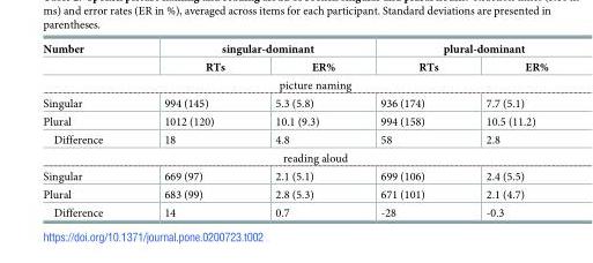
<table><thead><tr><td rowspan="2">Number</td><td colspan="2">singular-dominant</td><td colspan="2">plural-dominant</td></tr><tr><td>RTs</td><td>ER%</td><td>RTs</td><td>ER%</td></tr></thead><tbody><tr><td colspan="5">picture naming</td></tr><tr><td>Singular</td><td>994 (145)</td><td>5.3 (5.8)</td><td>936 (174)</td><td>7.7 (5.1)</td></tr><tr><td>Plural</td><td>1012 (120)</td><td>10.1 (9.3)</td><td>994 (158)</td><td>10.5 (11.2)</td></tr><tr><td>Difference</td><td>18</td><td>4.8</td><td>58</td><td>2.8</td></tr><tr><td colspan="5">reading aloud</td></tr><tr><td>Singular</td><td>669 (97)</td><td>2.1 (5.1)</td><td>699 (106)</td><td>2.4 (5.5)</td></tr><tr><td>Plural</td><td>683 (99)</td><td>2.8 (5.3)</td><td>671 (101)</td><td>2.1 (4.7)</td></tr><tr><td>Difference</td><td>14</td><td>0.7</td><td>-28</td><td>-0.3</td></tr></tbody></table>